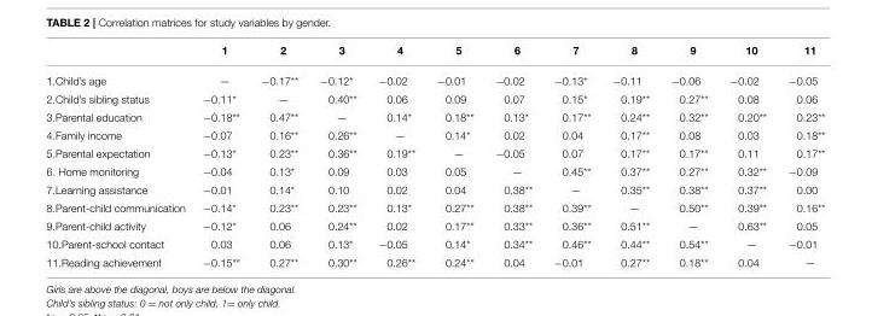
<table><thead><tr><td></td><td>1</td><td>2</td><td>3</td><td>4</td><td>5</td><td>6</td><td>7</td><td>8</td><td>9</td><td>10</td><td>11</td></tr></thead><tbody><tr><td>1.Child’s age</td><td>—</td><td>−0.17**</td><td>−0.12*</td><td>−0.02</td><td>−0.01</td><td>−0.02</td><td>−0.13*</td><td>−0.11</td><td>−0.06</td><td>−0.02</td><td>−0.05</td></tr><tr><td>2.Child’s sibling status</td><td>−0.11*</td><td>—</td><td>0.40**</td><td>0.06</td><td>0.09</td><td>0.07</td><td>0.15*</td><td>0.19**</td><td>0.27**</td><td>0.08</td><td>0.06</td></tr><tr><td>3.Parental education</td><td>−0.18**</td><td>0.47**</td><td>—</td><td>0.14*</td><td>0.18**</td><td>0.13*</td><td>0.17**</td><td>0.24**</td><td>0.32**</td><td>0.20**</td><td>0.23**</td></tr><tr><td>4.Family income</td><td>−0.07</td><td>0.16**</td><td>0.26**</td><td>—</td><td>0.14*</td><td>0.02</td><td>0.04</td><td>0.17**</td><td>0.08</td><td>0.03</td><td>0.18**</td></tr><tr><td>5.Parental expectation</td><td>−0.13*</td><td>0.23**</td><td>0.36**</td><td>0.19**</td><td>—</td><td>−0.05</td><td>0.07</td><td>0.17**</td><td>0.17**</td><td>0.11</td><td>0.17**</td></tr><tr><td>6. Home monitoring</td><td>−0.04</td><td>0.13*</td><td>0.09</td><td>0.03</td><td>0.05</td><td>—</td><td>0.45**</td><td>0.37**</td><td>0.27**</td><td>0.32**</td><td>−0.09</td></tr><tr><td>7.Learning assistance</td><td>−0.01</td><td>0.14*</td><td>0.10</td><td>0.02</td><td>0.04</td><td>0.38**</td><td>—</td><td>0.35**</td><td>0.38**</td><td>0.37**</td><td>0.00</td></tr><tr><td>8.Parent-child communication</td><td>−0.14*</td><td>0.23**</td><td>0.23**</td><td>0.13*</td><td>0.27**</td><td>0.38**</td><td>0.39**</td><td>—</td><td>0.50**</td><td>0.39**</td><td>0.16**</td></tr><tr><td>9.Parent-child activity</td><td>−0.12*</td><td>0.06</td><td>0.24**</td><td>0.02</td><td>0.17**</td><td>0.33**</td><td>0.36**</td><td>0.51**</td><td>—</td><td>0.63**</td><td>0.05</td></tr><tr><td>10.Parent-school contact</td><td>0.03</td><td>0.06</td><td>0.13*</td><td>−0.05</td><td>0.14*</td><td>0.34**</td><td>0.46**</td><td>0.44**</td><td>0.54**</td><td>—</td><td>−0.01</td></tr><tr><td>11.Reading achievement</td><td>−0.15**</td><td>0.27**</td><td>0.30**</td><td>0.26**</td><td>0.24**</td><td>0.04</td><td>−0.01</td><td>0.27**</td><td>0.18**</td><td>0.04</td><td>—</td></tr></tbody></table>